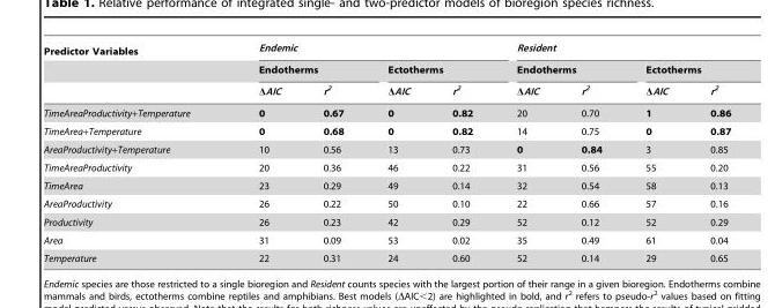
<table><thead><tr><td rowspan="3">Predictor Variables</td><td colspan="4">Endemic</td><td colspan="4">Resident</td></tr><tr><td colspan="2">Endotherms</td><td colspan="2">Ectotherms</td><td colspan="2">Endotherms</td><td colspan="2">Ectotherms</td></tr><tr><td>ΔAIC</td><td>r<sup>2</sup></td><td>ΔAIC</td><td>r<sup>2</sup></td><td>ΔAIC</td><td>r<sup>2</sup></td><td>ΔAIC</td><td>r<sup>2</sup></td></tr></thead><tbody><tr><td>TimeAreaProductivity+Temperature</td><td>0</td><td>0.67</td><td>0</td><td>0.82</td><td>20</td><td>0.70</td><td>1</td><td>0.86</td></tr><tr><td>TimeArea+Temperature</td><td>0</td><td>0.68</td><td>0</td><td>0.82</td><td>14</td><td>0.75</td><td>0</td><td>0.87</td></tr><tr><td>AreaProductivity+Temperature</td><td>10</td><td>0.56</td><td>13</td><td>0.73</td><td>0</td><td>0.84</td><td>3</td><td>0.85</td></tr><tr><td>TimeAreaProductivity</td><td>20</td><td>0.36</td><td>46</td><td>0.22</td><td>31</td><td>0.56</td><td>55</td><td>0.20</td></tr><tr><td>TimeArea</td><td>23</td><td>0.29</td><td>49</td><td>0.14</td><td>32</td><td>0.54</td><td>58</td><td>0.13</td></tr><tr><td>AreaProductivity</td><td>26</td><td>0.22</td><td>50</td><td>0.10</td><td>22</td><td>0.66</td><td>57</td><td>0.16</td></tr><tr><td>Productivity</td><td>26</td><td>0.23</td><td>42</td><td>0.29</td><td>52</td><td>0.12</td><td>52</td><td>0.29</td></tr><tr><td>Area</td><td>31</td><td>0.09</td><td>53</td><td>0.02</td><td>35</td><td>0.49</td><td>61</td><td>0.04</td></tr><tr><td>Temperature</td><td>22</td><td>0.31</td><td>24</td><td>0.60</td><td>52</td><td>0.14</td><td>29</td><td>0.65</td></tr></tbody></table>